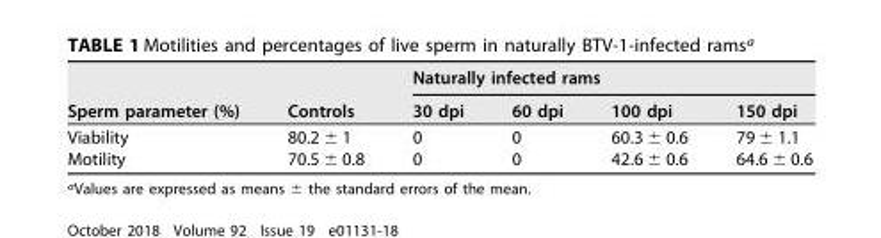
<table><thead><tr><td rowspan="2">Sperm parameter (%)</td><td rowspan="2">Controls</td><td colspan="4">Naturally infected rams</td></tr><tr><td>30 dpi</td><td>60 dpi</td><td>100 dpi</td><td>150 dpi</td></tr></thead><tbody><tr><td>Viability</td><td>80.2 ± 1</td><td>0</td><td>0</td><td>60.3 ± 0.6</td><td>79 ± 1.1</td></tr><tr><td>Motility</td><td>70.5 ± 0.8</td><td>0</td><td>0</td><td>42.6 ± 0.6</td><td>64.6 ± 0.6</td></tr></tbody></table>